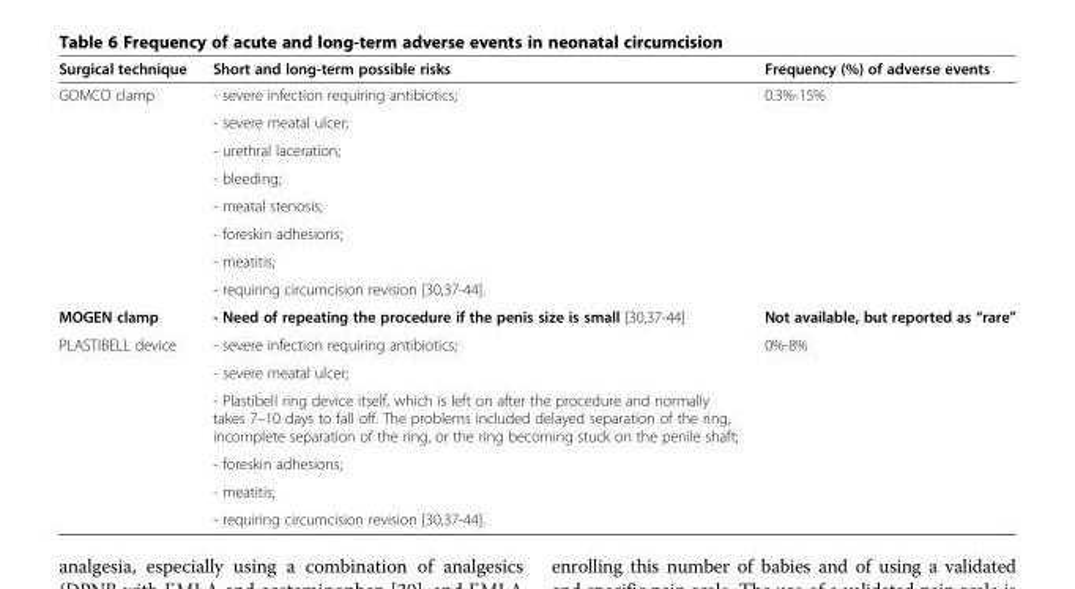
<table><thead><tr><td>Surgical technique</td><td>Short and long-term possible risks</td><td>Frequency (%) of adverse events</td></tr></thead><tbody><tr><td rowspan="8">GOMCO clamp</td><td>- severe infection requiring antibiotics;</td><td rowspan="8">0.3%-15%</td></tr><tr><td>- severe meatal ulcer;</td></tr><tr><td>- urethral laceration;</td></tr><tr><td>- bleeding;</td></tr><tr><td>- meatal stenosis;</td></tr><tr><td>- foreskin adhesions;</td></tr><tr><td>- meatitis;</td></tr><tr><td>- requiring circumcision revision [30,37-44].</td></tr><tr><td>MOGEN clamp</td><td>- Need of repeating the procedure if the penis size is small [30,37-44]</td><td>Not available, but reported as “rare”</td></tr><tr><td rowspan="6">PLASTIBELL device</td><td>- severe infection requiring antibiotics;</td><td rowspan="6">0%-8%</td></tr><tr><td>- severe meatal ulcer;</td></tr><tr><td>- Plastibell ring device itself, which is left on after the procedure and normally takes 7–10 days to fall off. The problems included delayed separation of the ring, incomplete separation of the ring, or the ring becoming stuck on the penile shaft;</td></tr><tr><td>- foreskin adhesions;</td></tr><tr><td>- meatitis;</td></tr><tr><td>- requiring circumcision revision [30,37-44].</td></tr></tbody></table>